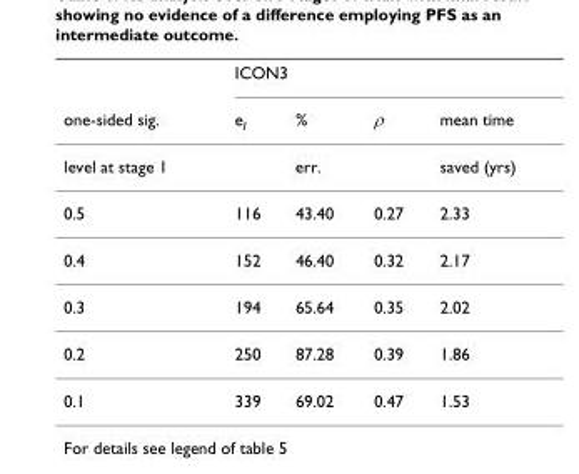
<table><thead><tr><td rowspan="2">one-sided sig.</td><td colspan="4">ICON3</td></tr><tr><td>e<sub>I</sub></td><td>%</td><td>ρ</td><td>mean time</td></tr></thead><tbody><tr><td>level at stage 1</td><td></td><td>err.</td><td></td><td>saved (yrs)</td></tr><tr><td>0.5</td><td>116</td><td>43.40</td><td>0.27</td><td>2.33</td></tr><tr><td>0.4</td><td>152</td><td>46.40</td><td>0.32</td><td>2.17</td></tr><tr><td>0.3</td><td>194</td><td>65.64</td><td>0.35</td><td>2.02</td></tr><tr><td>0.2</td><td>250</td><td>87.28</td><td>0.39</td><td>1.86</td></tr><tr><td>0.1</td><td>339</td><td>69.02</td><td>0.47</td><td>1.53</td></tr></tbody></table>